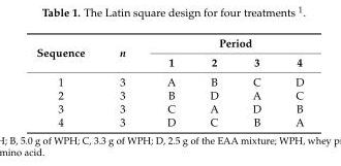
<table><thead><tr><td rowspan="2">Sequence</td><td rowspan="2">n</td><td colspan="4">Period</td></tr><tr><td>1</td><td>2</td><td>3</td><td>4</td></tr></thead><tbody><tr><td>1</td><td>3</td><td>A</td><td>B</td><td>C</td><td>D</td></tr><tr><td>2</td><td>3</td><td>B</td><td>D</td><td>A</td><td>C</td></tr><tr><td>3</td><td>3</td><td>C</td><td>A</td><td>D</td><td>B</td></tr><tr><td>4</td><td>3</td><td>D</td><td>C</td><td>B</td><td>A</td></tr></tbody></table>